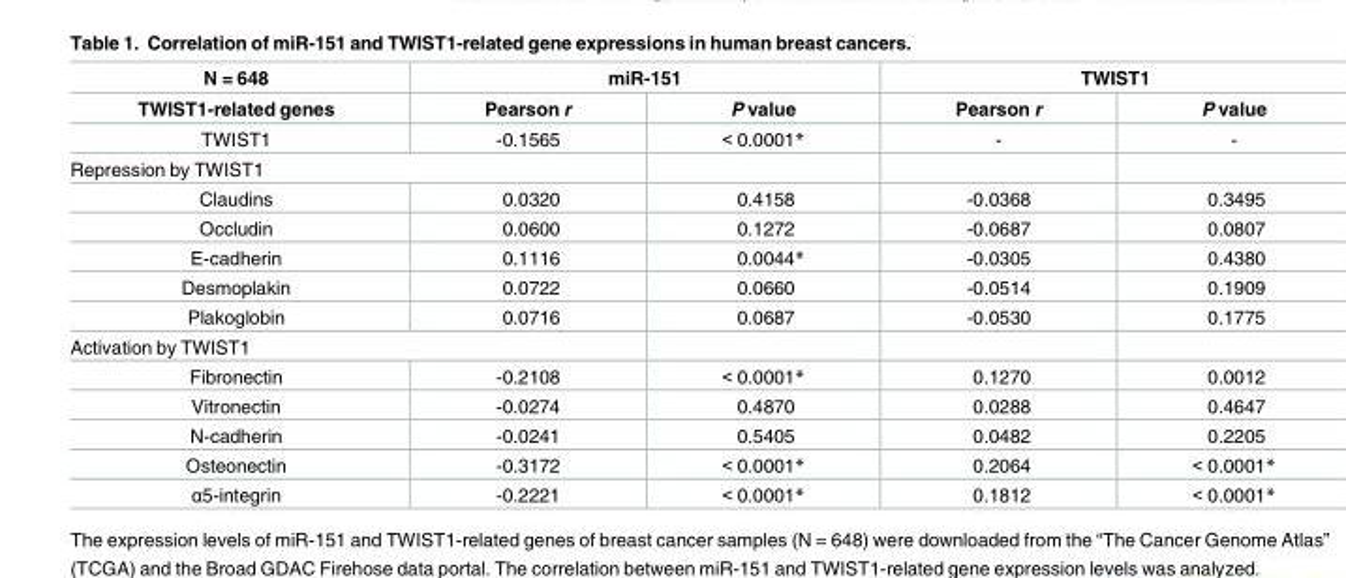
<table><thead><tr><td rowspan="2">N = 648 TWIST1-related genes</td><td colspan="2">miR-151</td><td colspan="2">TWIST1</td></tr><tr><td>Pearson r</td><td>P value</td><td>Pearson r</td><td>P value</td></tr></thead><tbody><tr><td>TWIST1</td><td>-0.1565</td><td>&lt; 0.0001*</td><td>-</td><td>-</td></tr><tr><td colspan="5">Repression by TWIST1</td></tr><tr><td>Claudins</td><td>0.0320</td><td>0.4158</td><td>-0.0368</td><td>0.3495</td></tr><tr><td>Occludin</td><td>0.0600</td><td>0.1272</td><td>-0.0687</td><td>0.0807</td></tr><tr><td>E-cadherin</td><td>0.1116</td><td>0.0044*</td><td>-0.0305</td><td>0.4380</td></tr><tr><td>Desmoplakin</td><td>0.0722</td><td>0.0660</td><td>-0.0514</td><td>0.1909</td></tr><tr><td>Plakoglobin</td><td>0.0716</td><td>0.0687</td><td>-0.0530</td><td>0.1775</td></tr><tr><td colspan="5">Activation by TWIST1</td></tr><tr><td>Fibronectin</td><td>-0.2108</td><td>&lt; 0.0001*</td><td>0.1270</td><td>0.0012</td></tr><tr><td>Vitronectin</td><td>-0.0274</td><td>0.4870</td><td>0.0288</td><td>0.4647</td></tr><tr><td>N-cadherin</td><td>-0.0241</td><td>0.5405</td><td>0.0482</td><td>0.2205</td></tr><tr><td>Osteonectin</td><td>-0.3172</td><td>&lt; 0.0001*</td><td>0.2064</td><td>&lt; 0.0001*</td></tr><tr><td>α5-integrin</td><td>-0.2221</td><td>&lt; 0.0001*</td><td>0.1812</td><td>&lt; 0.0001*</td></tr></tbody></table>